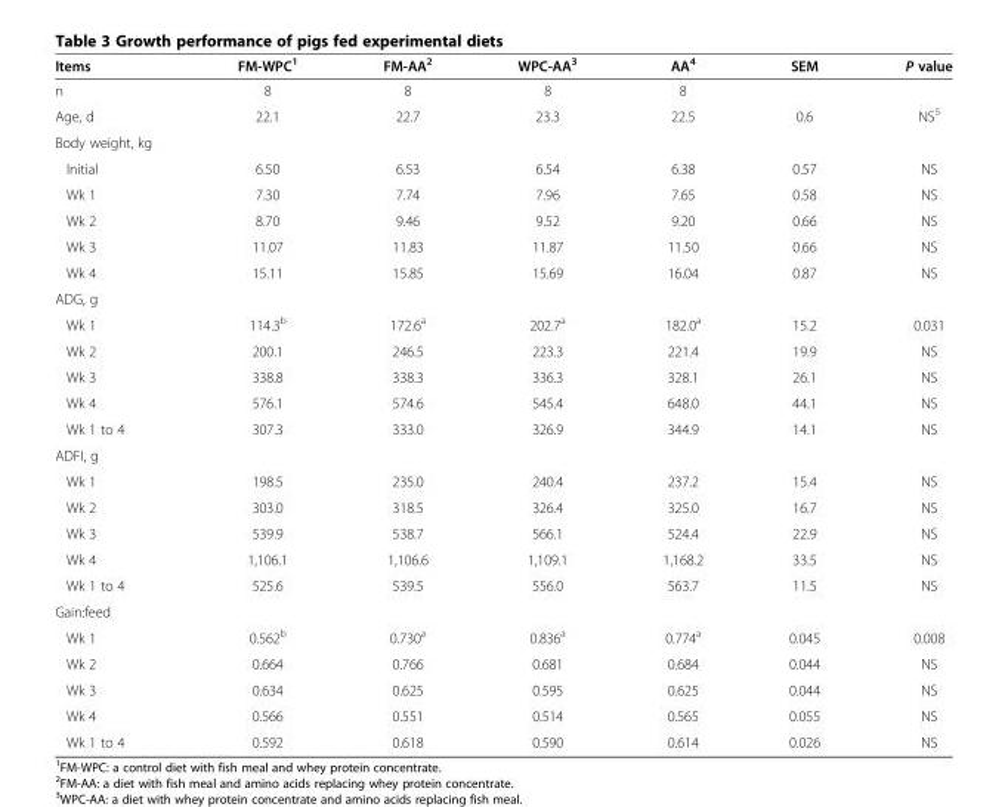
<table><thead><tr><td>Items</td><td>FM-WPC<sup>1</sup></td><td>FM-AA<sup>2</sup></td><td>WPC-AA<sup>3</sup></td><td>AA<sup>4</sup></td><td>SEM</td><td>P value</td></tr></thead><tbody><tr><td>n</td><td>8</td><td>8</td><td>8</td><td>8</td><td></td><td></td></tr><tr><td>Age, d</td><td>22.1</td><td>22.7</td><td>23.3</td><td>22.5</td><td>0.6</td><td>NS<sup>5</sup></td></tr><tr><td colspan="7">Body weight, kg</td></tr><tr><td>Initial</td><td>6.50</td><td>6.53</td><td>6.54</td><td>6.38</td><td>0.57</td><td>NS</td></tr><tr><td>Wk 1</td><td>7.30</td><td>7.74</td><td>7.96</td><td>7.65</td><td>0.58</td><td>NS</td></tr><tr><td>Wk 2</td><td>8.70</td><td>9.46</td><td>9.52</td><td>9.20</td><td>0.66</td><td>NS</td></tr><tr><td>Wk 3</td><td>11.07</td><td>11.83</td><td>11.87</td><td>11.50</td><td>0.66</td><td>NS</td></tr><tr><td>Wk 4</td><td>15.11</td><td>15.85</td><td>15.69</td><td>16.04</td><td>0.87</td><td>NS</td></tr><tr><td colspan="7">ADG, g</td></tr><tr><td>Wk 1</td><td>114.3<sup>b</sup></td><td>172.6<sup>a</sup></td><td>202.7<sup>a</sup></td><td>182.0<sup>a</sup></td><td>15.2</td><td>0.031</td></tr><tr><td>Wk 2</td><td>200.1</td><td>246.5</td><td>223.3</td><td>221.4</td><td>19.9</td><td>NS</td></tr><tr><td>Wk 3</td><td>338.8</td><td>338.3</td><td>336.3</td><td>328.1</td><td>26.1</td><td>NS</td></tr><tr><td>Wk 4</td><td>576.1</td><td>574.6</td><td>545.4</td><td>648.0</td><td>44.1</td><td>NS</td></tr><tr><td>Wk 1 to 4</td><td>307.3</td><td>333.0</td><td>326.9</td><td>344.9</td><td>14.1</td><td>NS</td></tr><tr><td colspan="7">ADFI, g</td></tr><tr><td>Wk 1</td><td>198.5</td><td>235.0</td><td>240.4</td><td>237.2</td><td>15.4</td><td>NS</td></tr><tr><td>Wk 2</td><td>303.0</td><td>318.5</td><td>326.4</td><td>325.0</td><td>16.7</td><td>NS</td></tr><tr><td>Wk 3</td><td>539.9</td><td>538.7</td><td>566.1</td><td>524.4</td><td>22.9</td><td>NS</td></tr><tr><td>Wk 4</td><td>1,106.1</td><td>1,106.6</td><td>1,109.1</td><td>1,168.2</td><td>33.5</td><td>NS</td></tr><tr><td>Wk 1 to 4</td><td>525.6</td><td>539.5</td><td>556.0</td><td>563.7</td><td>11.5</td><td>NS</td></tr><tr><td colspan="7">Gain:feed</td></tr><tr><td>Wk 1</td><td>0.562<sup>b</sup></td><td>0.730<sup>a</sup></td><td>0.836<sup>a</sup></td><td>0.774<sup>a</sup></td><td>0.045</td><td>0.008</td></tr><tr><td>Wk 2</td><td>0.664</td><td>0.766</td><td>0.681</td><td>0.684</td><td>0.044</td><td>NS</td></tr><tr><td>Wk 3</td><td>0.634</td><td>0.625</td><td>0.595</td><td>0.625</td><td>0.044</td><td>NS</td></tr><tr><td>Wk 4</td><td>0.566</td><td>0.551</td><td>0.514</td><td>0.565</td><td>0.055</td><td>NS</td></tr><tr><td>Wk 1 to 4</td><td>0.592</td><td>0.618</td><td>0.590</td><td>0.614</td><td>0.026</td><td>NS</td></tr></tbody></table>